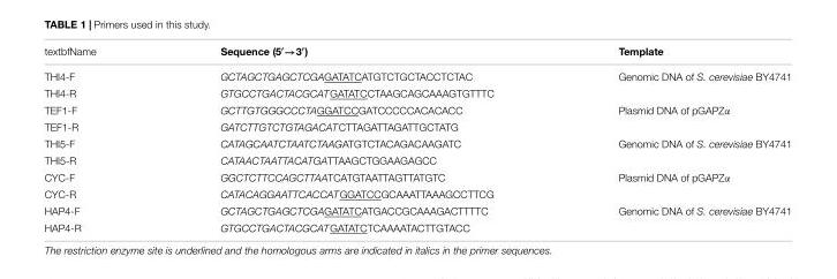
<table><thead><tr><td>textbfName</td><td>Sequence (5′→3′)</td><td>Template</td></tr></thead><tbody><tr><td>THI4-F</td><td>GCTAGCTGAGCTCGAGATATCATGTCTGCTACCTCTAC</td><td>Genomic DNA of S. cerevisiae BY4741</td></tr><tr><td>THI4-R</td><td>GTGCCTGACTACGCATGATATCCTAAGCAGCAAAGTGTTTC</td><td></td></tr><tr><td>TEF1-F</td><td>GCTTGTGGGCCCTAGGATCCGATCCCCCACACACC</td><td>Plasmid DNA of pGAPZα</td></tr><tr><td>TEF1-R</td><td>GATCTTGTCTGTAGACATCTTAGATTAGATTGCTATG</td><td></td></tr><tr><td>THI5-F</td><td>CATAGCAATCTAATCTAAGATGTCTACAGACAAGATC</td><td>Genomic DNA of S. cerevisiae BY4741</td></tr><tr><td>THI5-R</td><td>CATAACTAATTACATGATTAAGCTGGAAGAGCC</td><td></td></tr><tr><td>CYC-F</td><td>GGCTCTTCCAGCTTAATCATGTAATTAGTTATGTC</td><td>Plasmid DNA of pGAPZα</td></tr><tr><td>CYC-R</td><td>CATACAGGAATTCACCATGGATCCGCAAATTAAAGCCTTCG</td><td></td></tr><tr><td>HAP4-F</td><td>GCTAGCTGAGCTCGAGATATCATGACCGCAAAGACTTTTC</td><td>Genomic DNA of S. cerevisiae BY4741</td></tr><tr><td>HAP4-R</td><td>GTGCCTGACTACGCATGATATCTCAAAATACTTGTACC</td><td></td></tr></tbody></table>